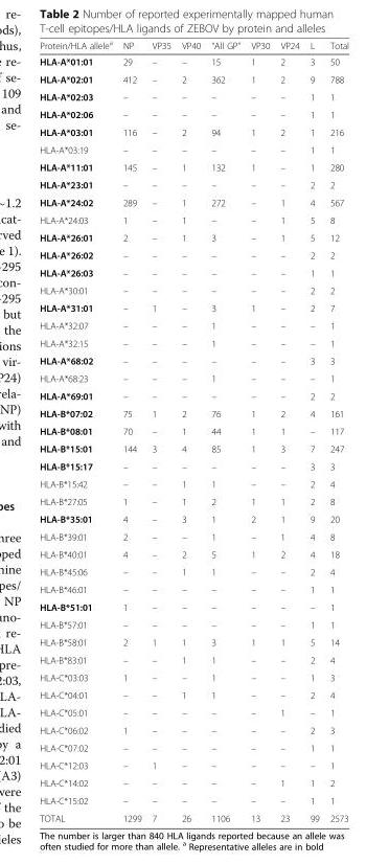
<table><thead><tr><td>Protein/HLA allele<sup>a</sup></td><td>NP</td><td>VP35</td><td>VP40</td><td>“All GP”</td><td>VP30</td><td>VP24</td><td>L</td><td>Total</td></tr></thead><tbody><tr><td>HLA-A*01:01</td><td>29</td><td>–</td><td>–</td><td>15</td><td>1</td><td>2</td><td>3</td><td>50</td></tr><tr><td>HLA-A*02:01</td><td>412</td><td>–</td><td>2</td><td>362</td><td>1</td><td>2</td><td>9</td><td>788</td></tr><tr><td>HLA-A*02:03</td><td>–</td><td>–</td><td>–</td><td>–</td><td>–</td><td>–</td><td>1</td><td>1</td></tr><tr><td>HLA-A*02:06</td><td>–</td><td>–</td><td>–</td><td>–</td><td>–</td><td>–</td><td>1</td><td>1</td></tr><tr><td>HLA-A*03:01</td><td>116</td><td>–</td><td>2</td><td>94</td><td>1</td><td>2</td><td>1</td><td>216</td></tr><tr><td>HLA-A*03:19</td><td>–</td><td>–</td><td>–</td><td>–</td><td>–</td><td>–</td><td>1</td><td>1</td></tr><tr><td>HLA-A*11:01</td><td>145</td><td>–</td><td>1</td><td>132</td><td>1</td><td>–</td><td>1</td><td>280</td></tr><tr><td>HLA-A*23:01</td><td>–</td><td>–</td><td>–</td><td>–</td><td>–</td><td>–</td><td>2</td><td>2</td></tr><tr><td>HLA-A*24:02</td><td>289</td><td>–</td><td>1</td><td>272</td><td>–</td><td>1</td><td>4</td><td>567</td></tr><tr><td>HLA-A*24:03</td><td>1</td><td>–</td><td>1</td><td>–</td><td>–</td><td>1</td><td>5</td><td>8</td></tr><tr><td>HLA-A*26:01</td><td>2</td><td>–</td><td>1</td><td>3</td><td>–</td><td>1</td><td>5</td><td>12</td></tr><tr><td>HLA-A*26:02</td><td>–</td><td>–</td><td>–</td><td>–</td><td>–</td><td>–</td><td>2</td><td>2</td></tr><tr><td>HLA-A*26:03</td><td>–</td><td>–</td><td>–</td><td>–</td><td>–</td><td>–</td><td>1</td><td>1</td></tr><tr><td>HLA-A*30:01</td><td>–</td><td>–</td><td>–</td><td>–</td><td>–</td><td>–</td><td>2</td><td>2</td></tr><tr><td>HLA-A*31:01</td><td>–</td><td>1</td><td>–</td><td>3</td><td>1</td><td>–</td><td>2</td><td>7</td></tr><tr><td>HLA-A*32:07</td><td>–</td><td>–</td><td>–</td><td>1</td><td>–</td><td>–</td><td>–</td><td>1</td></tr><tr><td>HLA-A*32:15</td><td>–</td><td>–</td><td>–</td><td>1</td><td>–</td><td>–</td><td>–</td><td>1</td></tr><tr><td>HLA-A*68:02</td><td>–</td><td>–</td><td>–</td><td>–</td><td>–</td><td>–</td><td>3</td><td>3</td></tr><tr><td>HLA-A*68:23</td><td>–</td><td>–</td><td>–</td><td>1</td><td>–</td><td>–</td><td>–</td><td>1</td></tr><tr><td>HLA-A*69:01</td><td>–</td><td>–</td><td>–</td><td>–</td><td>–</td><td>–</td><td>2</td><td>2</td></tr><tr><td>HLA-B*07:02</td><td>75</td><td>1</td><td>2</td><td>76</td><td>1</td><td>2</td><td>4</td><td>161</td></tr><tr><td>HLA-B*08:01</td><td>70</td><td>–</td><td>1</td><td>44</td><td>1</td><td>1</td><td>–</td><td>117</td></tr><tr><td>HLA-B*15:01</td><td>144</td><td>3</td><td>4</td><td>85</td><td>1</td><td>3</td><td>7</td><td>247</td></tr><tr><td>HLA-B*15:17</td><td>–</td><td>–</td><td>–</td><td>–</td><td>–</td><td>–</td><td>3</td><td>3</td></tr><tr><td>HLA-B*15:42</td><td>–</td><td>–</td><td>1</td><td>1</td><td>–</td><td>–</td><td>2</td><td>4</td></tr><tr><td>HLA-B*27:05</td><td>1</td><td>–</td><td>1</td><td>2</td><td>1</td><td>1</td><td>2</td><td>8</td></tr><tr><td>HLA-B*35:01</td><td>4</td><td>–</td><td>3</td><td>1</td><td>2</td><td>1</td><td>9</td><td>20</td></tr><tr><td>HLA-B*39:01</td><td>2</td><td>–</td><td>–</td><td>1</td><td>–</td><td>1</td><td>4</td><td>8</td></tr><tr><td>HLA-B*40:01</td><td>4</td><td>–</td><td>2</td><td>5</td><td>1</td><td>2</td><td>4</td><td>18</td></tr><tr><td>HLA-B*45:06</td><td>–</td><td>–</td><td>1</td><td>1</td><td>–</td><td>–</td><td>2</td><td>4</td></tr><tr><td>HLA-B*46:01</td><td>–</td><td>–</td><td>–</td><td>–</td><td>–</td><td>–</td><td>1</td><td>1</td></tr><tr><td>HLA-B*51:01</td><td>1</td><td>–</td><td>–</td><td>–</td><td>–</td><td>–</td><td>–</td><td>1</td></tr><tr><td>HLA-B*57:01</td><td>–</td><td>–</td><td>–</td><td>–</td><td>–</td><td>–</td><td>1</td><td>1</td></tr><tr><td>HLA-B*58:01</td><td>2</td><td>1</td><td>1</td><td>3</td><td>1</td><td>1</td><td>5</td><td>14</td></tr><tr><td>HLA-B*83:01</td><td>–</td><td>–</td><td>1</td><td>1</td><td>–</td><td>–</td><td>2</td><td>4</td></tr><tr><td>HLA-C*03:03</td><td>1</td><td>–</td><td>–</td><td>1</td><td>–</td><td>–</td><td>1</td><td>3</td></tr><tr><td>HLA-C*04:01</td><td>–</td><td>–</td><td>1</td><td>1</td><td>–</td><td>–</td><td>2</td><td>4</td></tr><tr><td>HLA-C*05:01</td><td>–</td><td>–</td><td>–</td><td>–</td><td>–</td><td>1</td><td>–</td><td>1</td></tr><tr><td>HLA-C*06:02</td><td>1</td><td>–</td><td>–</td><td>–</td><td>–</td><td>–</td><td>2</td><td>3</td></tr><tr><td>HLA-C*07:02</td><td>–</td><td>–</td><td>–</td><td>–</td><td>–</td><td>–</td><td>1</td><td>1</td></tr><tr><td>HLA-C*12:03</td><td>–</td><td>1</td><td>–</td><td>–</td><td>–</td><td>–</td><td>–</td><td>1</td></tr><tr><td>HLA-C*14:02</td><td>–</td><td>–</td><td>–</td><td>–</td><td>–</td><td>1</td><td>1</td><td>2</td></tr><tr><td>HLA-C*15:02</td><td>–</td><td>–</td><td>–</td><td>–</td><td>–</td><td>–</td><td>1</td><td>1</td></tr><tr><td>TOTAL</td><td>1299</td><td>7</td><td>26</td><td>1106</td><td>13</td><td>23</td><td>99</td><td>2573</td></tr></tbody></table>